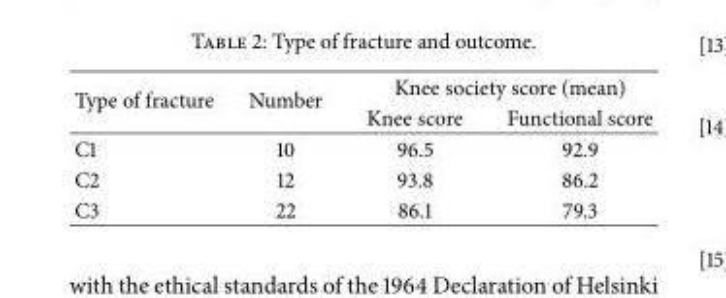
<table><thead><tr><td rowspan="2">Type of fracture</td><td rowspan="2">Number</td><td colspan="2">Knee society score (mean)</td></tr><tr><td>Knee score</td><td>Functional score</td></tr></thead><tbody><tr><td>C1</td><td>10</td><td>96.5</td><td>92.9</td></tr><tr><td>C2</td><td>12</td><td>93.8</td><td>86.2</td></tr><tr><td>C3</td><td>22</td><td>86.1</td><td>79.3</td></tr></tbody></table>